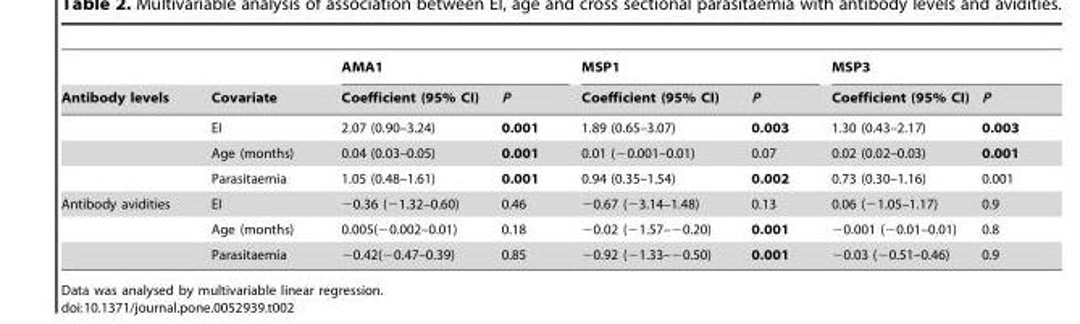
<table><thead><tr><td rowspan="2">Antibody levels</td><td rowspan="2">Covariate</td><td colspan="2">AMA1</td><td colspan="2">MSP1</td><td colspan="2">MSP3</td></tr><tr><td>Coefficient (95% CI)</td><td>P</td><td>Coefficient (95% CI)</td><td>P</td><td>Coefficient (95% CI)</td><td>P</td></tr></thead><tbody><tr><td></td><td>EI</td><td>2.07 (0.90–3.24)</td><td>0.001</td><td>1.89 (0.65–3.07)</td><td>0.003</td><td>1.30 (0.43–2.17)</td><td>0.003</td></tr><tr><td></td><td>Age (months)</td><td>0.04 (0.03–0.05)</td><td>0.001</td><td>0.01 (−0.001–0.01)</td><td>0.07</td><td>0.02 (0.02–0.03)</td><td>0.001</td></tr><tr><td></td><td>Parasitaemia</td><td>1.05 (0.48–1.61)</td><td>0.001</td><td>0.94 (0.35–1.54)</td><td>0.002</td><td>0.73 (0.30–1.16)</td><td>0.001</td></tr><tr><td rowspan="3">Antibody avidities</td><td>EI</td><td>−0.36 (−1.32–0.60)</td><td>0.46</td><td>−0.67 (−3.14–1.48)</td><td>0.13</td><td>0.06 (−1.05–1.17)</td><td>0.9</td></tr><tr><td>Age (months)</td><td>0.005(−0.002–0.01)</td><td>0.18</td><td>−0.02 (−1.57–−0.20)</td><td>0.001</td><td>−0.001 (−0.01–0.01)</td><td>0.8</td></tr><tr><td>Parasitaemia</td><td>−0.42(−0.47–0.39)</td><td>0.85</td><td>−0.92 (−1.33–−0.50)</td><td>0.001</td><td>−0.03 (−0.51–0.46)</td><td>0.9</td></tr></tbody></table>